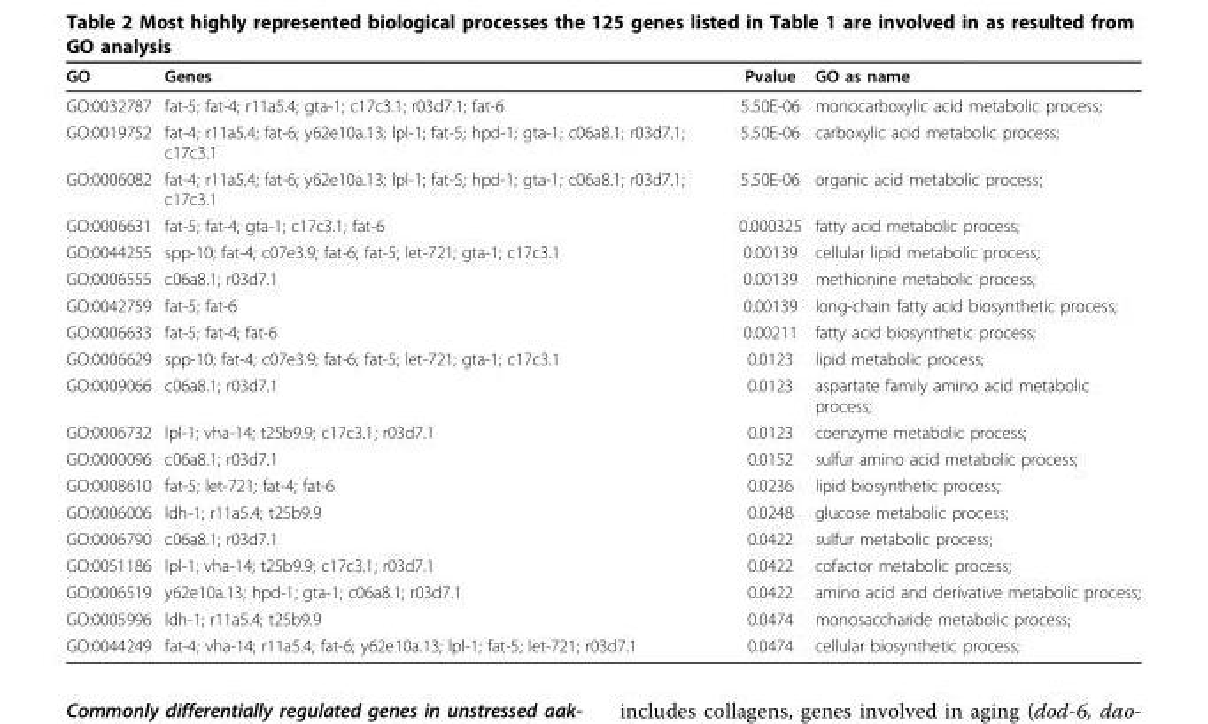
<table><thead><tr><td>GO</td><td>Genes</td><td>Pvalue</td><td>GO as name</td></tr></thead><tbody><tr><td>GO:0032787</td><td>fat-5; fat-4; r11a5.4; gta-1; c17c3.1; r03d7.1; fat-6</td><td>5.50E-06</td><td>monocarboxylic acid metabolic process;</td></tr><tr><td>GO:0019752</td><td>fat-4; r11a5.4; fat-6; y62e10a.13; lpl-1; fat-5; hpd-1; gta-1; c06a8.1; r03d7.1; c17c3.1</td><td>5.50E-06</td><td>carboxylic acid metabolic process;</td></tr><tr><td>GO:0006082</td><td>fat-4; r11a5.4; fat-6; y62e10a.13; lpl-1; fat-5; hpd-1; gta-1; c06a8.1; r03d7.1; c17c3.1</td><td>5.50E-06</td><td>organic acid metabolic process;</td></tr><tr><td>GO:0006631</td><td>fat-5; fat-4; gta-1; c17c3.1; fat-6</td><td>0.000325</td><td>fatty acid metabolic process;</td></tr><tr><td>GO:0044255</td><td>spp-10; fat-4; c07e3.9; fat-6; fat-5; let-721; gta-1; c17c3.1</td><td>0.00139</td><td>cellular lipid metabolic process;</td></tr><tr><td>GO:0006555</td><td>c06a8.1; r03d7.1</td><td>0.00139</td><td>methionine metabolic process;</td></tr><tr><td>GO:0042759</td><td>fat-5; fat-6</td><td>0.00139</td><td>long-chain fatty acid biosynthetic process;</td></tr><tr><td>GO:0006633</td><td>fat-5; fat-4; fat-6</td><td>0.00211</td><td>fatty acid biosynthetic process;</td></tr><tr><td>GO:0006629</td><td>spp-10; fat-4; c07e3.9; fat-6; fat-5; let-721; gta-1; c17c3.1</td><td>0.0123</td><td>lipid metabolic process;</td></tr><tr><td>GO:0009066</td><td>c06a8.1; r03d7.1</td><td>0.0123</td><td>aspartate family amino acid metabolic process;</td></tr><tr><td>GO:0006732</td><td>lpl-1; vha-14; t25b9.9; c17c3.1; r03d7.1</td><td>0.0123</td><td>coenzyme metabolic process;</td></tr><tr><td>GO:0000096</td><td>c06a8.1; r03d7.1</td><td>0.0152</td><td>sulfur amino acid metabolic process;</td></tr><tr><td>GO:0008610</td><td>fat-5; let-721; fat-4; fat-6</td><td>0.0236</td><td>lipid biosynthetic process;</td></tr><tr><td>GO:0006006</td><td>ldh-1; r11a5.4; t25b9.9</td><td>0.0248</td><td>glucose metabolic process;</td></tr><tr><td>GO:0006790</td><td>c06a8.1; r03d7.1</td><td>0.0422</td><td>sulfur metabolic process;</td></tr><tr><td>GO:0051186</td><td>lpl-1; vha-14; t25b9.9; c17c3.1; r03d7.1</td><td>0.0422</td><td>cofactor metabolic process;</td></tr><tr><td>GO:0006519</td><td>y62e10a.13; hpd-1; gta-1; c06a8.1; r03d7.1</td><td>0.0422</td><td>amino acid and derivative metabolic process;</td></tr><tr><td>GO:0005996</td><td>ldh-1; r11a5.4; t25b9.9</td><td>0.0474</td><td>monosaccharide metabolic process;</td></tr><tr><td>GO:0044249</td><td>fat-4; vha-14; r11a5.4; fat-6; y62e10a.13; lpl-1; fat-5; let-721; r03d7.1</td><td>0.0474</td><td>cellular biosynthetic process;</td></tr></tbody></table>